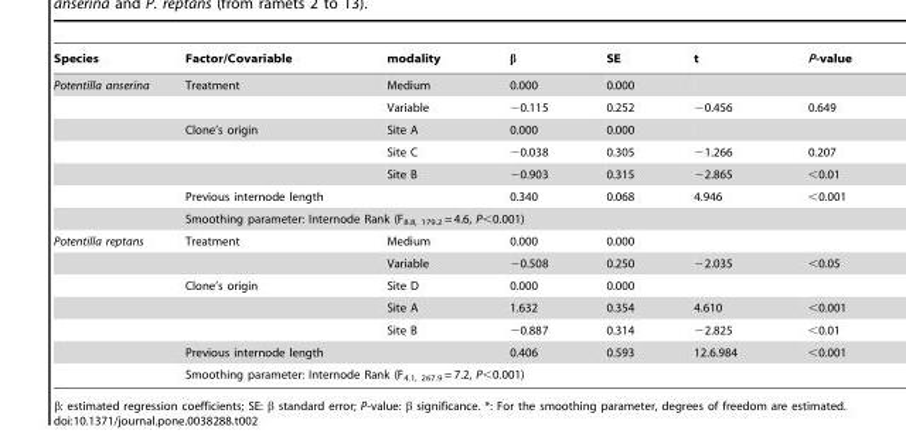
<table><thead><tr><td>Species</td><td>Factor/Covariable</td><td>modality</td><td>β</td><td>SE</td><td>t</td><td>P-value</td></tr></thead><tbody><tr><td rowspan="7">Potentilla anserina</td><td>Treatment</td><td>Medium</td><td>0.000</td><td>0.000</td><td></td><td></td></tr><tr><td></td><td>Variable</td><td>−0.115</td><td>0.252</td><td>−0.456</td><td>0.649</td></tr><tr><td>Clone’s origin</td><td>Site A</td><td>0.000</td><td>0.000</td><td></td><td></td></tr><tr><td></td><td>Site C</td><td>−0.038</td><td>0.305</td><td>−1.266</td><td>0.207</td></tr><tr><td></td><td>Site B</td><td>−0.903</td><td>0.315</td><td>−2.865</td><td>&lt;0.01</td></tr><tr><td colspan="2">Previous internode length</td><td>0.340</td><td>0.068</td><td>4.946</td><td>&lt;0.001</td></tr><tr><td colspan="6">Smoothing parameter: Internode Rank (F<sub>8.8, 179.2</sub> = 4.6, P&lt;0.001)</td></tr><tr><td rowspan="7">Potentilla reptans</td><td>Treatment</td><td>Medium</td><td>0.000</td><td>0.000</td><td></td><td></td></tr><tr><td></td><td>Variable</td><td>−0.508</td><td>0.250</td><td>−2.035</td><td>&lt;0.05</td></tr><tr><td>Clone’s origin</td><td>Site D</td><td>0.000</td><td>0.000</td><td></td><td></td></tr><tr><td></td><td>Site A</td><td>1.632</td><td>0.354</td><td>4.610</td><td>&lt;0.001</td></tr><tr><td></td><td>Site B</td><td>−0.887</td><td>0.314</td><td>−2.825</td><td>&lt;0.01</td></tr><tr><td colspan="2">Previous internode length</td><td>0.406</td><td>0.593</td><td>12.6.984</td><td>&lt;0.001</td></tr><tr><td colspan="6">Smoothing parameter: Internode Rank (F<sub>4.1, 267.9</sub> = 7.2, P&lt;0.001)</td></tr></tbody></table>